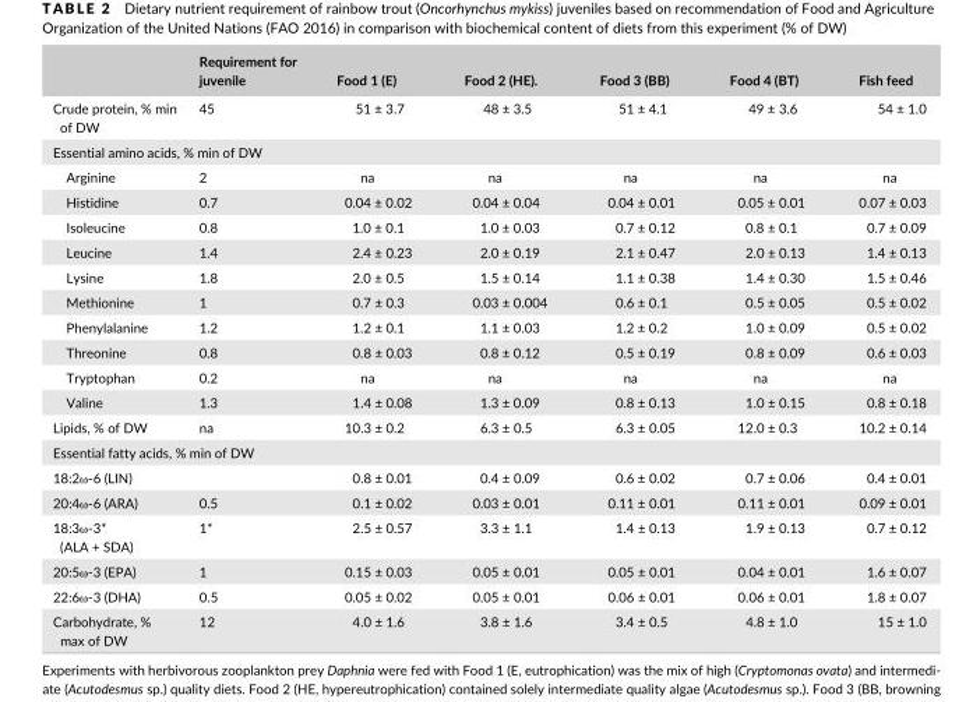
<table><thead><tr><td></td><td>Requirement for juvenile</td><td>Food 1 (E)</td><td>Food 2 (HE).</td><td>Food 3 (BB)</td><td>Food 4 (BT)</td><td>Fish feed</td></tr></thead><tbody><tr><td>Crude protein, % min of DW</td><td>45</td><td>51 ± 3.7</td><td>48 ± 3.5</td><td>51 ± 4.1</td><td>49 ± 3.6</td><td>54 ± 1.0</td></tr><tr><td colspan="7">Essential amino acids, % min of DW</td></tr><tr><td>Arginine</td><td>2</td><td>na</td><td>na</td><td>na</td><td>na</td><td>na</td></tr><tr><td>Histidine</td><td>0.7</td><td>0.04 ± 0.02</td><td>0.04 ± 0.04</td><td>0.04 ± 0.01</td><td>0.05 ± 0.01</td><td>0.07 ± 0.03</td></tr><tr><td>Isoleucine</td><td>0.8</td><td>1.0 ± 0.1</td><td>1.0 ± 0.03</td><td>0.7 ± 0.12</td><td>0.8 ± 0.1</td><td>0.7 ± 0.09</td></tr><tr><td>Leucine</td><td>1.4</td><td>2.4 ± 0.23</td><td>2.0 ± 0.19</td><td>2.1 ± 0.47</td><td>2.0 ± 0.13</td><td>1.4 ± 0.13</td></tr><tr><td>Lysine</td><td>1.8</td><td>2.0 ± 0.5</td><td>1.5 ± 0.14</td><td>1.1 ± 0.38</td><td>1.4 ± 0.30</td><td>1.5 ± 0.46</td></tr><tr><td>Methionine</td><td>1</td><td>0.7 ± 0.3</td><td>0.03 ± 0.004</td><td>0.6 ± 0.1</td><td>0.5 ± 0.05</td><td>0.5 ± 0.02</td></tr><tr><td>Phenylalanine</td><td>1.2</td><td>1.2 ± 0.1</td><td>1.1 ± 0.03</td><td>1.2 ± 0.2</td><td>1.0 ± 0.09</td><td>0.5 ± 0.02</td></tr><tr><td>Threonine</td><td>0.8</td><td>0.8 ± 0.03</td><td>0.8 ± 0.12</td><td>0.5 ± 0.19</td><td>0.8 ± 0.09</td><td>0.6 ± 0.03</td></tr><tr><td>Tryptophan</td><td>0.2</td><td>na</td><td>na</td><td>na</td><td>na</td><td>na</td></tr><tr><td>Valine</td><td>1.3</td><td>1.4 ± 0.08</td><td>1.3 ± 0.09</td><td>0.8 ± 0.13</td><td>1.0 ± 0.15</td><td>0.8 ± 0.18</td></tr><tr><td>Lipids, % of DW</td><td>na</td><td>10.3 ± 0.2</td><td>6.3 ± 0.5</td><td>6.3 ± 0.05</td><td>12.0 ± 0.3</td><td>10.2 ± 0.14</td></tr><tr><td colspan="7">Essential fatty acids, % min of DW</td></tr><tr><td>18:2ω- 6 (LIN)</td><td></td><td>0.8 ± 0.01</td><td>0.4 ± 0.09</td><td>0.6 ± 0.02</td><td>0.7 ± 0.06</td><td>0.4 ± 0.01</td></tr><tr><td>20:4ω- 6 (ARA)</td><td>0.5</td><td>0.1 ± 0.02</td><td>0.03 ± 0.01</td><td>0.11 ± 0.01</td><td>0.11 ± 0.01</td><td>0.09 ± 0.01</td></tr><tr><td>18:3ω- 3* (ALA + SDA)</td><td>1*</td><td>2.5 ± 0.57</td><td>3.3 ± 1.1</td><td>1.4 ± 0.13</td><td>1.9 ± 0.13</td><td>0.7 ± 0.12</td></tr><tr><td>20:5ω- 3 (EPA)</td><td>1</td><td>0.15 ± 0.03</td><td>0.05 ± 0.01</td><td>0.05 ± 0.01</td><td>0.04 ± 0.01</td><td>1.6 ± 0.07</td></tr><tr><td>22:6ω- 3 (DHA)</td><td>0.5</td><td>0.05 ± 0.02</td><td>0.05 ± 0.01</td><td>0.06 ± 0.01</td><td>0.06 ± 0.01</td><td>1.8 ± 0.07</td></tr><tr><td>Carbohydrate, % max of DW</td><td>12</td><td>4.0 ± 1.6</td><td>3.8 ± 1.6</td><td>3.4 ± 0.5</td><td>4.8 ± 1.0</td><td>15 ± 1.0</td></tr></tbody></table>